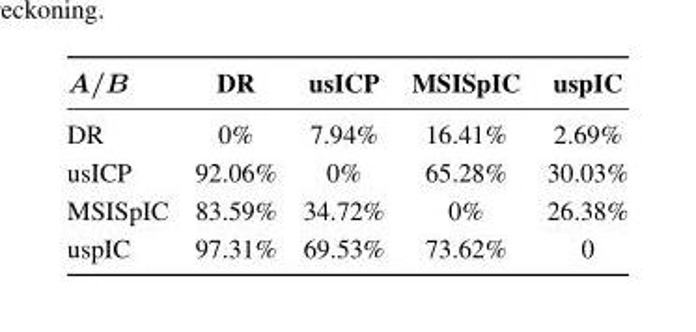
<table><thead><tr><td>A/B</td><td>DR</td><td>usICP</td><td>MSISpIC</td><td>uspIC</td></tr></thead><tbody><tr><td>DR</td><td>0%</td><td>7.94%</td><td>16.41%</td><td>2.69%</td></tr><tr><td>usICP</td><td>92.06%</td><td>0%</td><td>65.28%</td><td>30.03%</td></tr><tr><td>MSISpIC</td><td>83.59%</td><td>34.72%</td><td>0%</td><td>26.38%</td></tr><tr><td>uspIC</td><td>97.31%</td><td>69.53%</td><td>73.62%</td><td>0</td></tr></tbody></table>